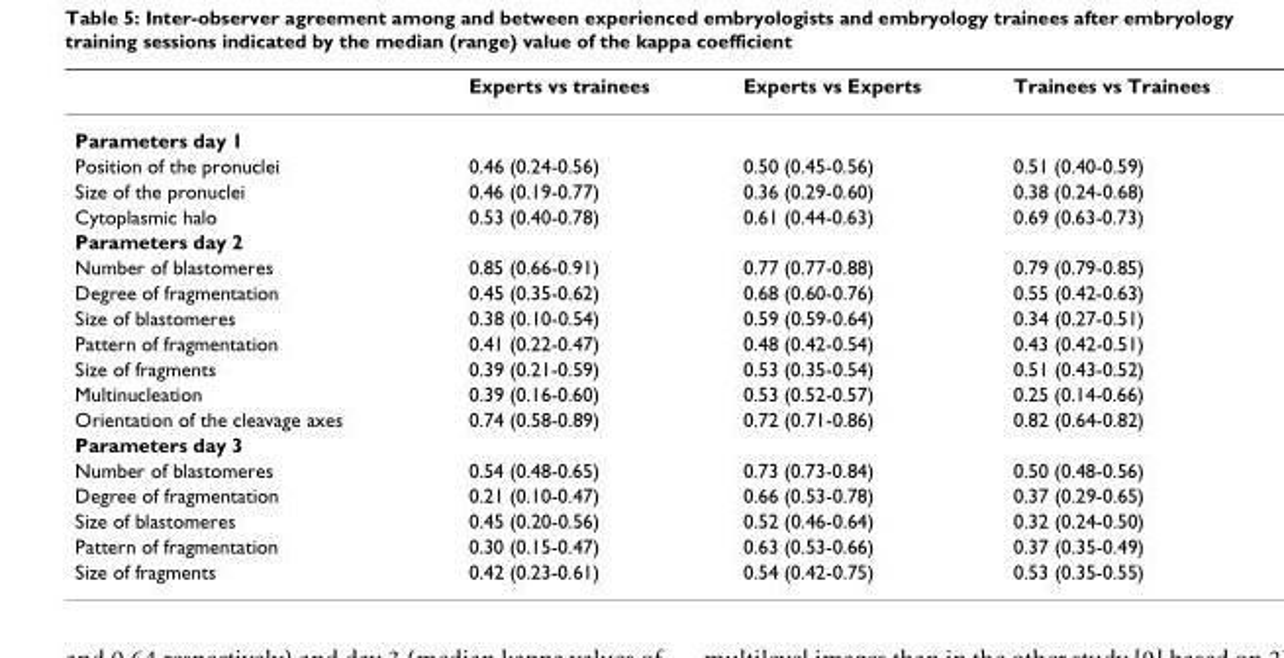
<table><thead><tr><td></td><td>Experts vs trainees</td><td>Experts vs Experts</td><td>Trainees vs Trainees</td></tr></thead><tbody><tr><td colspan="4">Parameters day 1</td></tr><tr><td>Position of the pronuclei</td><td>0.46 (0.24-0.56)</td><td>0.50 (0.45-0.56)</td><td>0.51 (0.40-0.59)</td></tr><tr><td>Size of the pronuclei</td><td>0.46 (0.19-0.77)</td><td>0.36 (0.29-0.60)</td><td>0.38 (0.24-0.68)</td></tr><tr><td>Cytoplasmic halo</td><td>0.53 (0.40-0.78)</td><td>0.61 (0.44-0.63)</td><td>0.69 (0.63-0.73)</td></tr><tr><td colspan="4">Parameters day 2</td></tr><tr><td>Number of blastomeres</td><td>0.85 (0.66-0.91)</td><td>0.77 (0.77-0.88)</td><td>0.79 (0.79-0.85)</td></tr><tr><td>Degree of fragmentation</td><td>0.45 (0.35-0.62)</td><td>0.68 (0.60-0.76)</td><td>0.55 (0.42-0.63)</td></tr><tr><td>Size of blastomeres</td><td>0.38 (0.10-0.54)</td><td>0.59 (0.59-0.64)</td><td>0.34 (0.27-0.51)</td></tr><tr><td>Pattern of fragmentation</td><td>0.41 (0.22-0.47)</td><td>0.48 (0.42-0.54)</td><td>0.43 (0.42-0.51)</td></tr><tr><td>Size of fragments</td><td>0.39 (0.21-0.59)</td><td>0.53 (0.35-0.54)</td><td>0.51 (0.43-0.52)</td></tr><tr><td>Multinucleation</td><td>0.39 (0.16-0.60)</td><td>0.53 (0.52-0.57)</td><td>0.25 (0.14-0.66)</td></tr><tr><td>Orientation of the cleavage axes</td><td>0.74 (0.58-0.89)</td><td>0.72 (0.71-0.86)</td><td>0.82 (0.64-0.82)</td></tr><tr><td colspan="4">Parameters day 3</td></tr><tr><td>Number of blastomeres</td><td>0.54 (0.48-0.65)</td><td>0.73 (0.73-0.84)</td><td>0.50 (0.48-0.56)</td></tr><tr><td>Degree of fragmentation</td><td>0.21 (0.10-0.47)</td><td>0.66 (0.53-0.78)</td><td>0.37 (0.29-0.65)</td></tr><tr><td>Size of blastomeres</td><td>0.45 (0.20-0.56)</td><td>0.52 (0.46-0.64)</td><td>0.32 (0.24-0.50)</td></tr><tr><td>Pattern of fragmentation</td><td>0.30 (0.15-0.47)</td><td>0.63 (0.53-0.66)</td><td>0.37 (0.35-0.49)</td></tr><tr><td>Size of fragments</td><td>0.42 (0.23-0.61)</td><td>0.54 (0.42-0.75)</td><td>0.53 (0.35-0.55)</td></tr></tbody></table>